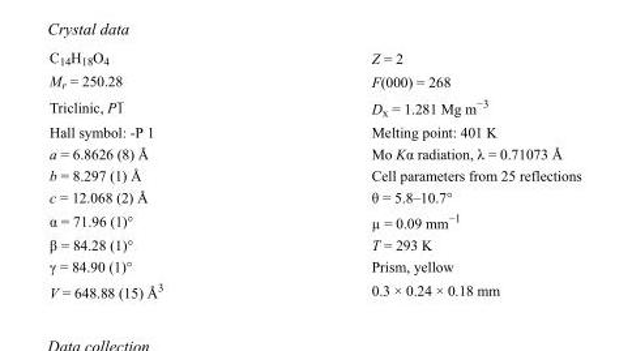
<table><tbody><tr><td>C<sub>14</sub>H<sub>18</sub>O<sub>4</sub></td><td>Z = 2</td></tr><tr><td>M<sub>r</sub> = 250.28</td><td>F(000) = 268</td></tr><tr><td>Triclinic, P1</td><td>D<sub>x</sub> = 1.281 Mg m<sup>−3</sup></td></tr><tr><td>Hall symbol: -P 1</td><td>Melting point: 401 K</td></tr><tr><td>a = 6.8626 (8) Å</td><td>Mo Kα radiation, λ = 0.71073 Å</td></tr><tr><td>b = 8.297 (1) Å</td><td>Cell parameters from 25 reflections</td></tr><tr><td>c = 12.068 (2) Å</td><td>θ = 5.8–10.7°</td></tr><tr><td>α = 71.96 (1)°</td><td>µ = 0.09 mm<sup>−1</sup></td></tr><tr><td>β = 84.28 (1)°</td><td>T = 293 K</td></tr><tr><td>γ = 84.90 (1)°</td><td>Prism, yellow</td></tr><tr><td>V = 648.88 (15) Å<sup>3</sup></td><td>0.3 × 0.24 × 0.18 mm</td></tr></tbody></table>